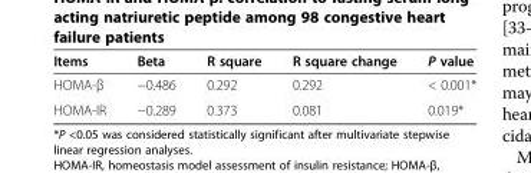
<table><thead><tr><td>Items</td><td>Beta</td><td>R square</td><td>R square change</td><td>P value</td></tr></thead><tbody><tr><td>HOMA-β</td><td>−0.486</td><td>0.292</td><td>0.292</td><td>&lt; 0.001*</td></tr><tr><td>HOMA-IR</td><td>−0.289</td><td>0.373</td><td>0.081</td><td>0.019*</td></tr></tbody></table>